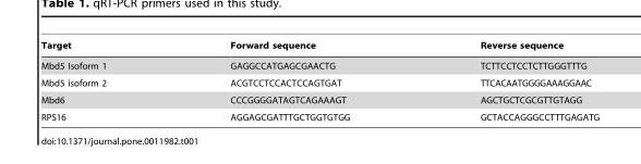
<table><thead><tr><td>Target</td><td>Forward sequence</td><td>Reverse sequence</td></tr></thead><tbody><tr><td>Mbd5 Isoform 1</td><td>GAGGCCATGAGCGAACTG</td><td>TCTTCCTCCTCTTGGGTTTG</td></tr><tr><td>Mbd5 isoform 2</td><td>ACGTCCTCCACTCCAGTGAT</td><td>TTCACAATGGGGAAAGGAAC</td></tr><tr><td>Mbd6</td><td>CCCGGGGATAGTCAGAAAGT</td><td>AGCTGCTCGCGTTGTAGG</td></tr><tr><td>RPS16</td><td>AGGAGCGATTTGCTGGTGTGG</td><td>GCTACCAGGGCCTTTGAGATG</td></tr></tbody></table>